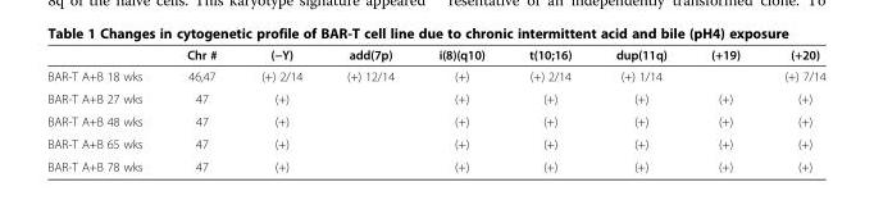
<table><thead><tr><td></td><td>Chr #</td><td>(−Y)</td><td>add(7p)</td><td>i(8)(q10)</td><td>t(10;16)</td><td>dup(11q)</td><td>(+19)</td><td>(+20)</td></tr></thead><tbody><tr><td>BAR-T A+B 18 wks</td><td>46,47</td><td>(+) 2/14</td><td>(+) 12/14</td><td>(+)</td><td>(+) 2/14</td><td>(+) 1/14</td><td></td><td>(+) 7/14</td></tr><tr><td>BAR-T A+B 27 wks</td><td>47</td><td>(+)</td><td></td><td>(+)</td><td>(+)</td><td>(+)</td><td>(+)</td><td>(+)</td></tr><tr><td>BAR-T A+B 48 wks</td><td>47</td><td>(+)</td><td></td><td>(+)</td><td>(+)</td><td>(+)</td><td>(+)</td><td>(+)</td></tr><tr><td>BAR-T A+B 65 wks</td><td>47</td><td>(+)</td><td></td><td>(+)</td><td>(+)</td><td>(+)</td><td>(+)</td><td>(+)</td></tr><tr><td>BAR-T A+B 78 wks</td><td>47</td><td>(+)</td><td></td><td>(+)</td><td>(+)</td><td>(+)</td><td>(+)</td><td>(+)</td></tr></tbody></table>